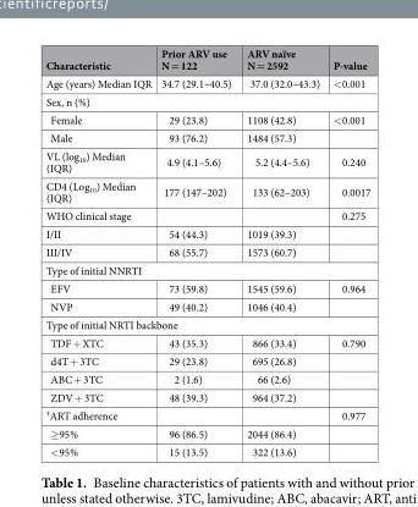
<table><thead><tr><td>Characteristic</td><td>Prior ARV use N = 122</td><td>ARV naïve N = 2592</td><td>P-value</td></tr></thead><tbody><tr><td>Age (years) Median IQR</td><td>34.7 (29.1–40.5)</td><td>37.0 (32.0–43.3)</td><td>&lt;0.001</td></tr><tr><td colspan="4">Sex, n (%)</td></tr><tr><td>Female</td><td>29 (23.8)</td><td>1108 (42.8)</td><td>&lt;0.001</td></tr><tr><td>Male</td><td>93 (76.2)</td><td>1484 (57.3)</td><td></td></tr><tr><td>VL (log<sub>10</sub>) Median (IQR)</td><td>4.9 (4.1–5.6)</td><td>5.2 (4.4–5.6)</td><td>0.240</td></tr><tr><td>CD4 (Log<sub>10</sub>) Median (IQR)</td><td>177 (147–202)</td><td>133 (62–203)</td><td>0.0017</td></tr><tr><td>WHO clinical stage</td><td></td><td></td><td>0.275</td></tr><tr><td>I/II</td><td>54 (44.3)</td><td>1019 (39.3)</td><td></td></tr><tr><td>III/IV</td><td>68 (55.7)</td><td>1573 (60.7)</td><td></td></tr><tr><td colspan="4">Type of initial NNRTI</td></tr><tr><td>EFV</td><td>73 (59.8)</td><td>1545 (59.6)</td><td>0.964</td></tr><tr><td>NVP</td><td>49 (40.2)</td><td>1046 (40.4)</td><td></td></tr><tr><td colspan="4">Type of initial NRTI backbone</td></tr><tr><td>TDF + XTC</td><td>43 (35.3)</td><td>866 (33.4)</td><td>0.790</td></tr><tr><td>d4T + 3TC</td><td>29 (23.8)</td><td>695 (26.8)</td><td></td></tr><tr><td>ABC + 3TC</td><td>2 (1.6)</td><td>66 (2.6)</td><td></td></tr><tr><td>ZDV + 3TC</td><td>48 (39.3)</td><td>964 (37.2)</td><td></td></tr><tr><td><sup>†</sup>ART adherence</td><td></td><td></td><td>0.977</td></tr><tr><td>≥95%</td><td>96 (86.5)</td><td>2044 (86.4)</td><td></td></tr><tr><td>&lt;95%</td><td>15 (13.5)</td><td>322 (13.6)</td><td></td></tr></tbody></table>